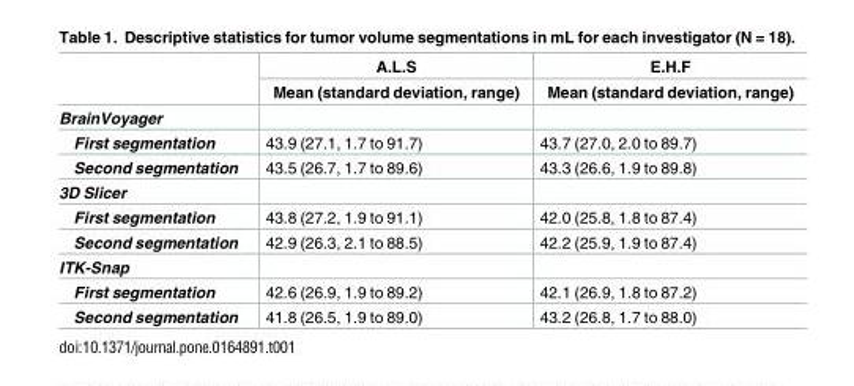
<table><thead><tr><td rowspan="2"></td><td rowspan="2">A.L.S Mean (standard deviation, range)</td><td rowspan="2">E.H.F Mean (standard deviation, range)</td></tr><tr></tr></thead><tbody><tr><td colspan="3">BrainVoyager</td></tr><tr><td>First segmentation</td><td>43.9 (27.1, 1.7 to 91.7)</td><td>43.7 (27.0, 2.0 to 89.7)</td></tr><tr><td>Second segmentation</td><td>43.5 (26.7, 1.7 to 89.6)</td><td>43.3 (26.6, 1.9 to 89.8)</td></tr><tr><td colspan="3">3D Slicer</td></tr><tr><td>First segmentation</td><td>43.8 (27.2, 1.9 to 91.1)</td><td>42.0 (25.8, 1.8 to 87.4)</td></tr><tr><td>Second segmentation</td><td>42.9 (26.3, 2.1 to 88.5)</td><td>42.2 (25.9, 1.9 to 87.4)</td></tr><tr><td colspan="3">ITK-Snap</td></tr><tr><td>First segmentation</td><td>42.6 (26.9, 1.9 to 89.2)</td><td>42.1 (26.9, 1.8 to 87.2)</td></tr><tr><td>Second segmentation</td><td>41.8 (26.5, 1.9 to 89.0)</td><td>43.2 (26.8, 1.7 to 88.0)</td></tr></tbody></table>